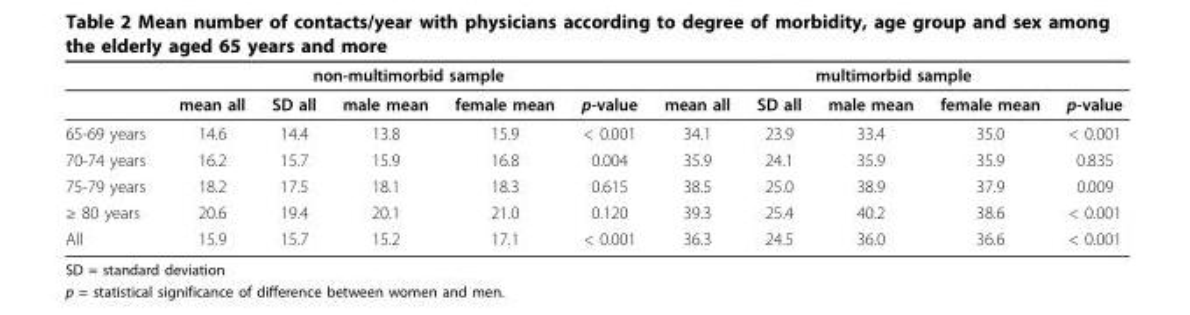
<table><thead><tr><td rowspan="2"></td><td colspan="5">non-multimorbid sample</td><td colspan="5">multimorbid sample</td></tr><tr><td>mean all</td><td>SD all</td><td>male mean</td><td>female mean</td><td>p-value</td><td>mean all</td><td>SD all</td><td>male mean</td><td>female mean</td><td>p-value</td></tr></thead><tbody><tr><td>65-69 years</td><td>14.6</td><td>14.4</td><td>13.8</td><td>15.9</td><td>&lt; 0.001</td><td>34.1</td><td>23.9</td><td>33.4</td><td>35.0</td><td>&lt; 0.001</td></tr><tr><td>70-74 years</td><td>16.2</td><td>15.7</td><td>15.9</td><td>16.8</td><td>0.004</td><td>35.9</td><td>24.1</td><td>35.9</td><td>35.9</td><td>0.835</td></tr><tr><td>75-79 years</td><td>18.2</td><td>17.5</td><td>18.1</td><td>18.3</td><td>0.615</td><td>38.5</td><td>25.0</td><td>38.9</td><td>37.9</td><td>0.009</td></tr><tr><td>≥ 80 years</td><td>20.6</td><td>19.4</td><td>20.1</td><td>21.0</td><td>0.120</td><td>39.3</td><td>25.4</td><td>40.2</td><td>38.6</td><td>&lt; 0.001</td></tr><tr><td>All</td><td>15.9</td><td>15.7</td><td>15.2</td><td>17.1</td><td>&lt; 0.001</td><td>36.3</td><td>24.5</td><td>36.0</td><td>36.6</td><td>&lt; 0.001</td></tr></tbody></table>